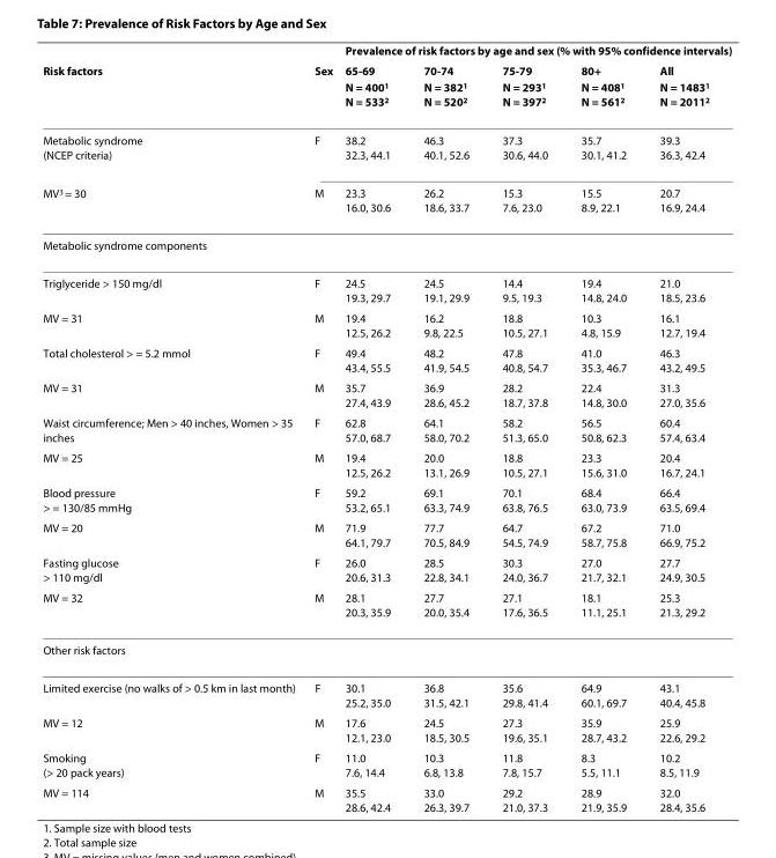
<table><thead><tr><td rowspan="2">Risk factors</td><td rowspan="2">Sex</td><td colspan="5">Prevalence of risk factors by age and sex (% with 95% confidence intervals)</td></tr><tr><td>65-69 N = 400<sup>1</sup> N = 533<sup>2</sup></td><td>70-74 N = 382<sup>1</sup> N = 520<sup>2</sup></td><td>75-79 N = 293<sup>1</sup> N = 397<sup>2</sup></td><td>80+ N = 408<sup>1</sup> N = 561<sup>2</sup></td><td>All N = 1483<sup>1</sup> N = 2011<sup>2</sup></td></tr></thead><tbody><tr><td>Metabolic syndrome (NCEP criteria)</td><td>F</td><td>38.2 32.3, 44.1</td><td>46.3 40.1, 52.6</td><td>37.3 30.6, 44.0</td><td>35.7 30.1, 41.2</td><td>39.3 36.3, 42.4</td></tr><tr><td>MV<sup>3</sup> = 30</td><td>M</td><td>23.3 16.0, 30.6</td><td>26.2 18.6, 33.7</td><td>15.3 7.6, 23.0</td><td>15.5 8.9, 22.1</td><td>20.7 16.9, 24.4</td></tr><tr><td colspan="7">Metabolic syndrome components</td></tr><tr><td>Triglyceride &gt; 150 mg/dl</td><td>F</td><td>24.5 19.3, 29.7</td><td>24.5 19.1, 29.9</td><td>14.4 9.5, 19.3</td><td>19.4 14.8, 24.0</td><td>21.0 18.5, 23.6</td></tr><tr><td>MV = 31</td><td>M</td><td>19.4 12.5, 26.2</td><td>16.2 9.8, 22.5</td><td>18.8 10.5, 27.1</td><td>10.3 4.8, 15.9</td><td>16.1 12.7, 19.4</td></tr><tr><td>Total cholesterol &gt; = 5.2 mmol</td><td>F</td><td>49.4 43.4, 55.5</td><td>48.2 41.9, 54.5</td><td>47.8 40.8, 54.7</td><td>41.0 35.3, 46.7</td><td>46.3 43.2, 49.5</td></tr><tr><td>MV = 31</td><td>M</td><td>35.7 27.4, 43.9</td><td>36.9 28.6, 45.2</td><td>28.2 18.7, 37.8</td><td>22.4 14.8, 30.0</td><td>31.3 27.0, 35.6</td></tr><tr><td>Waist circumference; Men &gt; 40 inches, Women &gt; 35 inches</td><td>F</td><td>62.8 57.0, 68.7</td><td>64.1 58.0, 70.2</td><td>58.2 51.3, 65.0</td><td>56.5 50.8, 62.3</td><td>60.4 57.4, 63.4</td></tr><tr><td>MV = 25</td><td>M</td><td>19.4 12.5, 26.2</td><td>20.0 13.1, 26.9</td><td>18.8 10.5, 27.1</td><td>23.3 15.6, 31.0</td><td>20.4 16.7, 24.1</td></tr><tr><td>Blood pressure &gt; = 130/85 mmHg</td><td>F</td><td>59.2 53.2, 65.1</td><td>69.1 63.3, 74.9</td><td>70.1 63.8, 76.5</td><td>68.4 63.0, 73.9</td><td>66.4 63.5, 69.4</td></tr><tr><td>MV = 20</td><td>M</td><td>71.9 64.1, 79.7</td><td>77.7 70.5, 84.9</td><td>64.7 54.5, 74.9</td><td>67.2 58.7, 75.8</td><td>71.0 66.9, 75.2</td></tr><tr><td>Fasting glucose &gt; 110 mg/dl</td><td>F</td><td>26.0 20.6, 31.3</td><td>28.5 22.8, 34.1</td><td>30.3 24.0, 36.7</td><td>27.0 21.7, 32.1</td><td>27.7 24.9, 30.5</td></tr><tr><td>MV = 32</td><td>M</td><td>28.1 20.3, 35.9</td><td>27.7 20.0, 35.4</td><td>27.1 17.6, 36.5</td><td>18.1 11.1, 25.1</td><td>25.3 21.3, 29.2</td></tr><tr><td colspan="7">Other risk factors</td></tr><tr><td>Limited exercise (no walks of &gt; 0.5 km in last month)</td><td>F</td><td>30.1 25.2, 35.0</td><td>36.8 31.5, 42.1</td><td>35.6 29.8, 41.4</td><td>64.9 60.1, 69.7</td><td>43.1 40.4, 45.8</td></tr><tr><td>MV = 12</td><td>M</td><td>17.6 12.1, 23.0</td><td>24.5 18.5, 30.5</td><td>27.3 19.6, 35.1</td><td>35.9 28.7, 43.2</td><td>25.9 22.6, 29.2</td></tr><tr><td>Smoking (&gt; 20 pack years)</td><td>F</td><td>11.0 7.6, 14.4</td><td>10.3 6.8, 13.8</td><td>11.8 7.8, 15.7</td><td>8.3 5.5, 11.1</td><td>10.2 8.5, 11.9</td></tr><tr><td>MV = 114</td><td>M</td><td>35.5 28.6, 42.4</td><td>33.0 26.3, 39.7</td><td>29.2 21.0, 37.3</td><td>28.9 21.9, 35.9</td><td>32.0 28.4, 35.6</td></tr></tbody></table>